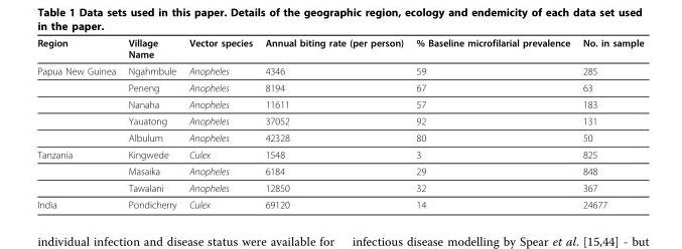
<table><thead><tr><td>Region</td><td>Village Name</td><td>Vector species</td><td>Annual biting rate (per person)</td><td>% Baseline microfilarial prevalence</td><td>No. in sample</td></tr></thead><tbody><tr><td rowspan="5">Papua New Guinea</td><td>Ngahmbule</td><td>Anopheles</td><td>4346</td><td>59</td><td>285</td></tr><tr><td>Peneng</td><td>Anopheles</td><td>8194</td><td>67</td><td>63</td></tr><tr><td>Nanaha</td><td>Anopheles</td><td>11611</td><td>57</td><td>183</td></tr><tr><td>Yauatong</td><td>Anopheles</td><td>37052</td><td>92</td><td>131</td></tr><tr><td>Albulum</td><td>Anopheles</td><td>42328</td><td>80</td><td>50</td></tr><tr><td rowspan="3">Tanzania</td><td>Kingwede</td><td>Culex</td><td>1548</td><td>3</td><td>825</td></tr><tr><td>Masaika</td><td>Anopheles</td><td>6184</td><td>29</td><td>848</td></tr><tr><td>Tawalani</td><td>Anopheles</td><td>12850</td><td>32</td><td>367</td></tr><tr><td>India</td><td>Pondicherry</td><td>Culex</td><td>69120</td><td>14</td><td>24677</td></tr></tbody></table>